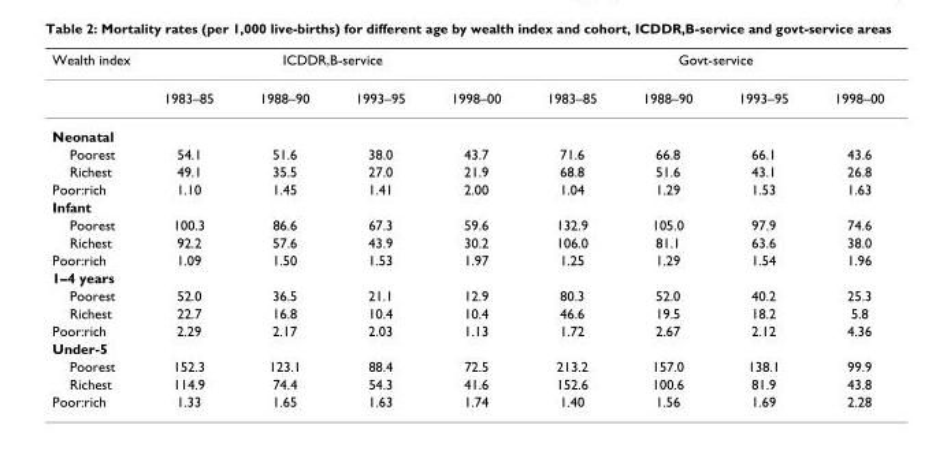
<table><thead><tr><td rowspan="2">Wealth index</td><td colspan="4">ICDDR,B-service</td><td colspan="4">Govt-service</td></tr><tr><td>1983–85</td><td>1988–90</td><td>1993–95</td><td>1998–00</td><td>1983–85</td><td>1988–90</td><td>1993–95</td><td>1998–00</td></tr></thead><tbody><tr><td colspan="9">Neonatal</td></tr><tr><td>Poorest</td><td>54.1</td><td>51.6</td><td>38.0</td><td>43.7</td><td>71.6</td><td>66.8</td><td>66.1</td><td>43.6</td></tr><tr><td>Richest</td><td>49.1</td><td>35.5</td><td>27.0</td><td>21.9</td><td>68.8</td><td>51.6</td><td>43.1</td><td>26.8</td></tr><tr><td>Poor:rich</td><td>1.10</td><td>1.45</td><td>1.41</td><td>2.00</td><td>1.04</td><td>1.29</td><td>1.53</td><td>1.63</td></tr><tr><td colspan="9">Infant</td></tr><tr><td>Poorest</td><td>100.3</td><td>86.6</td><td>67.3</td><td>59.6</td><td>132.9</td><td>105.0</td><td>97.9</td><td>74.6</td></tr><tr><td>Richest</td><td>92.2</td><td>57.6</td><td>43.9</td><td>30.2</td><td>106.0</td><td>81.1</td><td>63.6</td><td>38.0</td></tr><tr><td>Poor:rich</td><td>1.09</td><td>1.50</td><td>1.53</td><td>1.97</td><td>1.25</td><td>1.29</td><td>1.54</td><td>1.96</td></tr><tr><td colspan="9">1–4 years</td></tr><tr><td>Poorest</td><td>52.0</td><td>36.5</td><td>21.1</td><td>12.9</td><td>80.3</td><td>52.0</td><td>40.2</td><td>25.3</td></tr><tr><td>Richest</td><td>22.7</td><td>16.8</td><td>10.4</td><td>10.4</td><td>46.6</td><td>19.5</td><td>18.2</td><td>5.8</td></tr><tr><td>Poor:rich</td><td>2.29</td><td>2.17</td><td>2.03</td><td>1.13</td><td>1.72</td><td>2.67</td><td>2.12</td><td>4.36</td></tr><tr><td colspan="9">Under-5</td></tr><tr><td>Poorest</td><td>152.3</td><td>123.1</td><td>88.4</td><td>72.5</td><td>213.2</td><td>157.0</td><td>138.1</td><td>99.9</td></tr><tr><td>Richest</td><td>114.9</td><td>74.4</td><td>54.3</td><td>41.6</td><td>152.6</td><td>100.6</td><td>81.9</td><td>43.8</td></tr><tr><td>Poor:rich</td><td>1.33</td><td>1.65</td><td>1.63</td><td>1.74</td><td>1.40</td><td>1.56</td><td>1.69</td><td>2.28</td></tr></tbody></table>